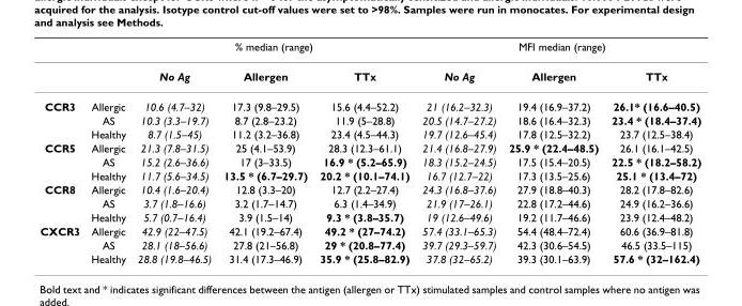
<table><thead><tr><td rowspan="2"></td><td rowspan="2"></td><td colspan="3">% median (range)</td><td colspan="3">MFI median (range)</td></tr><tr><td>No Ag</td><td>Allergen</td><td>TTx</td><td>No Ag</td><td>Allergen</td><td>TTx</td></tr></thead><tbody><tr><td rowspan="3">CCR3</td><td>Allergic</td><td>10.6 (4.7–32)</td><td>17.3 (9.8–29.5)</td><td>15.6 (4.4–52.2)</td><td>21 (16.2–32.3)</td><td>19.4 (16.9–37.2)</td><td>26.1* (16.6–40.5)</td></tr><tr><td>AS</td><td>10.3 (3.3–19.7)</td><td>8.7 (2.8–23.2)</td><td>11.9 (5–28.8)</td><td>20.5 (14.7–27.2)</td><td>18.6 (16.4–32.3)</td><td>23.4 * (18.4–37.4)</td></tr><tr><td>Healthy</td><td>8.7 (1.5–45)</td><td>11.2 (3.2–36.8)</td><td>23.4 (4.5–44.3)</td><td>19.7 (12.6–45.4)</td><td>17.8 (12.5–32.2)</td><td>23.7 (12.5–38.4)</td></tr><tr><td rowspan="3">CCR5</td><td>Allergic</td><td>21.3 (7.8–31.5)</td><td>25 (4.1–53.9)</td><td>28.3 (12.3–61.1)</td><td>21.4 (16.8–27.9)</td><td>25.9 * (22.4–48.5)</td><td>26.1 (16.1–42.5)</td></tr><tr><td>AS</td><td>15.2 (2.6–36.6)</td><td>17 (3–33.5)</td><td>16.9 * (5.2–65.9)</td><td>18.3 (15.2–24.5)</td><td>17.5 (15.4–20.5)</td><td>22.5 * (18.2–58.2)</td></tr><tr><td>Healthy</td><td>11.7 (5.6–34.5)</td><td>13.5 * (6.7–29.7)</td><td>20.2 * (10.1–74.1)</td><td>16.7 (12.7–22)</td><td>17.3 (13.5–25.6)</td><td>25.1 * (13.4–72)</td></tr><tr><td rowspan="3">CCR8</td><td>Allergic</td><td>10.4 (1.6–20.4)</td><td>12.8 (3.3–20)</td><td>12.7 (2.2–27.4)</td><td>24.3 (16.8–37.6)</td><td>27.9 (18.8–40.3)</td><td>28.2 (17.8–82.6)</td></tr><tr><td>AS</td><td>3.7 (1.8–16.6)</td><td>3.2 (1.7–14.7)</td><td>6.3 (1.4–34.9)</td><td>21.9 (17–26.1)</td><td>22.8 (17.2–44.6)</td><td>24.9 (16.2–36.6)</td></tr><tr><td>Healthy</td><td>5.7 (0.7–16.4)</td><td>3.9 (1.5–14)</td><td>9.3 * (3.8–35.7)</td><td>19 (12.6–49.6)</td><td>19.2 (11.7–46.6)</td><td>23.9 (12.4–48.2)</td></tr><tr><td rowspan="3">CXCR3</td><td>Allergic</td><td>42.9 (22–47.5)</td><td>42.1 (19.2–67.4)</td><td>49.2 * (27–74.2)</td><td>57.4 (33.1–65.3)</td><td>54.4 (48.4–72.4)</td><td>60.6 (36.9–81.8)</td></tr><tr><td>AS</td><td>28.1 (18–56.6)</td><td>27.8 (21–56.8)</td><td>29 * (20.8–77.4)</td><td>39.7 (29.3–59.7)</td><td>42.3 (30.6–54.5)</td><td>46.5 (33.5–115)</td></tr><tr><td>Healthy</td><td>28.8 (19.8–46.5)</td><td>31.4 (17.3–46.9)</td><td>35.9 * (25.8–82.9)</td><td>37.8 (32–65.2)</td><td>39.3 (30.1–63.9)</td><td>57.6 * (32–162.4)</td></tr></tbody></table>